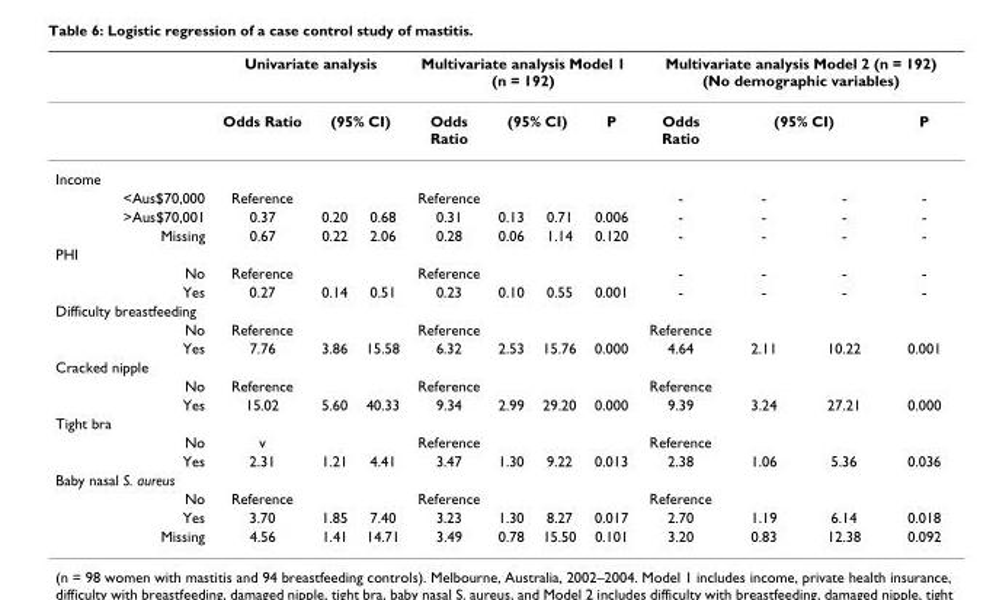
<table><thead><tr><td rowspan="3">Income</td><td colspan="3">Univariate analysis</td><td colspan="4">Multivariate analysis Model 1 (n = 192)</td><td colspan="4">Multivariate analysis Model 2 (n = 192) (No demographic variables)</td></tr><tr><td rowspan="2">Odds Ratio</td><td colspan="2">(95% CI)</td><td rowspan="2">Odds Ratio</td><td colspan="2">(95% CI)</td><td rowspan="2">P</td><td rowspan="2">Odds Ratio</td><td colspan="2">(95% CI)</td><td rowspan="2">P</td></tr><tr><td></td><td></td><td></td><td></td><td></td><td></td></tr></thead><tbody><tr><td>&lt;Aus$70,000</td><td>Reference</td><td></td><td></td><td>Reference</td><td></td><td></td><td></td><td>-</td><td>-</td><td>-</td><td>-</td></tr><tr><td>&gt;Aus$70,001</td><td>0.37</td><td>0.20</td><td>0.68</td><td>0.31</td><td>0.13</td><td>0.71</td><td>0.006</td><td>-</td><td>-</td><td>-</td><td>-</td></tr><tr><td>Missing</td><td>0.67</td><td>0.22</td><td>2.06</td><td>0.28</td><td>0.06</td><td>1.14</td><td>0.120</td><td>-</td><td>-</td><td>-</td><td>-</td></tr><tr><td colspan="12">PHI</td></tr><tr><td>No</td><td>Reference</td><td></td><td></td><td>Reference</td><td></td><td></td><td></td><td>-</td><td>-</td><td>-</td><td>-</td></tr><tr><td>Yes</td><td>0.27</td><td>0.14</td><td>0.51</td><td>0.23</td><td>0.10</td><td>0.55</td><td>0.001</td><td>-</td><td>-</td><td>-</td><td>-</td></tr><tr><td colspan="12">Difficulty breastfeeding</td></tr><tr><td>No</td><td>Reference</td><td></td><td></td><td>Reference</td><td></td><td></td><td></td><td>Reference</td><td></td><td></td><td></td></tr><tr><td>Yes</td><td>7.76</td><td>3.86</td><td>15.58</td><td>6.32</td><td>2.53</td><td>15.76</td><td>0.000</td><td>4.64</td><td>2.11</td><td>10.22</td><td>0.001</td></tr><tr><td colspan="12">Cracked nipple</td></tr><tr><td>No</td><td>Reference</td><td></td><td></td><td>Reference</td><td></td><td></td><td></td><td>Reference</td><td></td><td></td><td></td></tr><tr><td>Yes</td><td>15.02</td><td>5.60</td><td>40.33</td><td>9.34</td><td>2.99</td><td>29.20</td><td>0.000</td><td>9.39</td><td>3.24</td><td>27.21</td><td>0.000</td></tr><tr><td colspan="12">Tight bra</td></tr><tr><td>No</td><td>v</td><td></td><td></td><td>Reference</td><td></td><td></td><td></td><td>Reference</td><td></td><td></td><td></td></tr><tr><td>Yes</td><td>2.31</td><td>1.21</td><td>4.41</td><td>3.47</td><td>1.30</td><td>9.22</td><td>0.013</td><td>2.38</td><td>1.06</td><td>5.36</td><td>0.036</td></tr><tr><td colspan="12">Baby nasal S. aureus</td></tr><tr><td>No</td><td>Reference</td><td></td><td></td><td>Reference</td><td></td><td></td><td></td><td>Reference</td><td></td><td></td><td></td></tr><tr><td>Yes</td><td>3.70</td><td>1.85</td><td>7.40</td><td>3.23</td><td>1.30</td><td>8.27</td><td>0.017</td><td>2.70</td><td>1.19</td><td>6.14</td><td>0.018</td></tr><tr><td>Missing</td><td>4.56</td><td>1.41</td><td>14.71</td><td>3.49</td><td>0.78</td><td>15.50</td><td>0.101</td><td>3.20</td><td>0.83</td><td>12.38</td><td>0.092</td></tr></tbody></table>